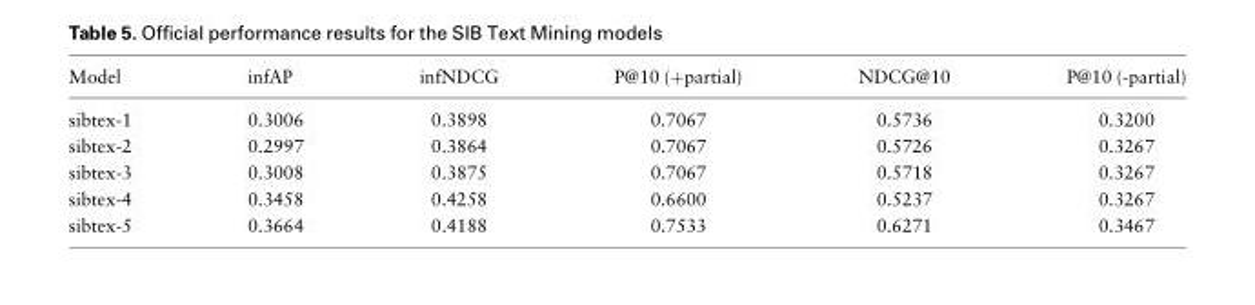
<table><thead><tr><td>Model</td><td>infAP</td><td>infNDCG</td><td>P@10 (+partial)</td><td>NDCG@10</td><td>P@10 (-partial)</td></tr></thead><tbody><tr><td>sibtex-1</td><td>0.3006</td><td>0.3898</td><td>0.7067</td><td>0.5736</td><td>0.3200</td></tr><tr><td>sibtex-2</td><td>0.2997</td><td>0.3864</td><td>0.7067</td><td>0.5726</td><td>0.3267</td></tr><tr><td>sibtex-3</td><td>0.3008</td><td>0.3875</td><td>0.7067</td><td>0.5718</td><td>0.3267</td></tr><tr><td>sibtex-4</td><td>0.3458</td><td>0.4258</td><td>0.6600</td><td>0.5237</td><td>0.3267</td></tr><tr><td>sibtex-5</td><td>0.3664</td><td>0.4188</td><td>0.7533</td><td>0.6271</td><td>0.3467</td></tr></tbody></table>